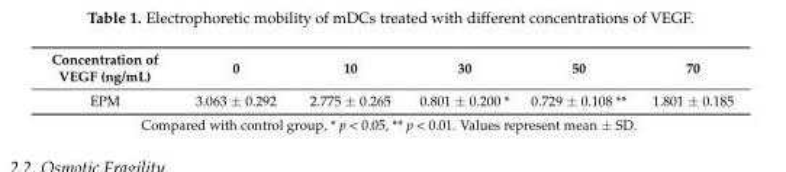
<table><thead><tr><td>Concentration of VEGF (ng/mL)</td><td>0</td><td>10</td><td>30</td><td>50</td><td>70</td></tr></thead><tbody><tr><td>EPM</td><td>3.063 ± 0.292</td><td>2.775 ± 0.265</td><td>0.801 ± 0.200 *</td><td>0.729 ± 0.108 **</td><td>1.801 ± 0.185</td></tr></tbody></table>